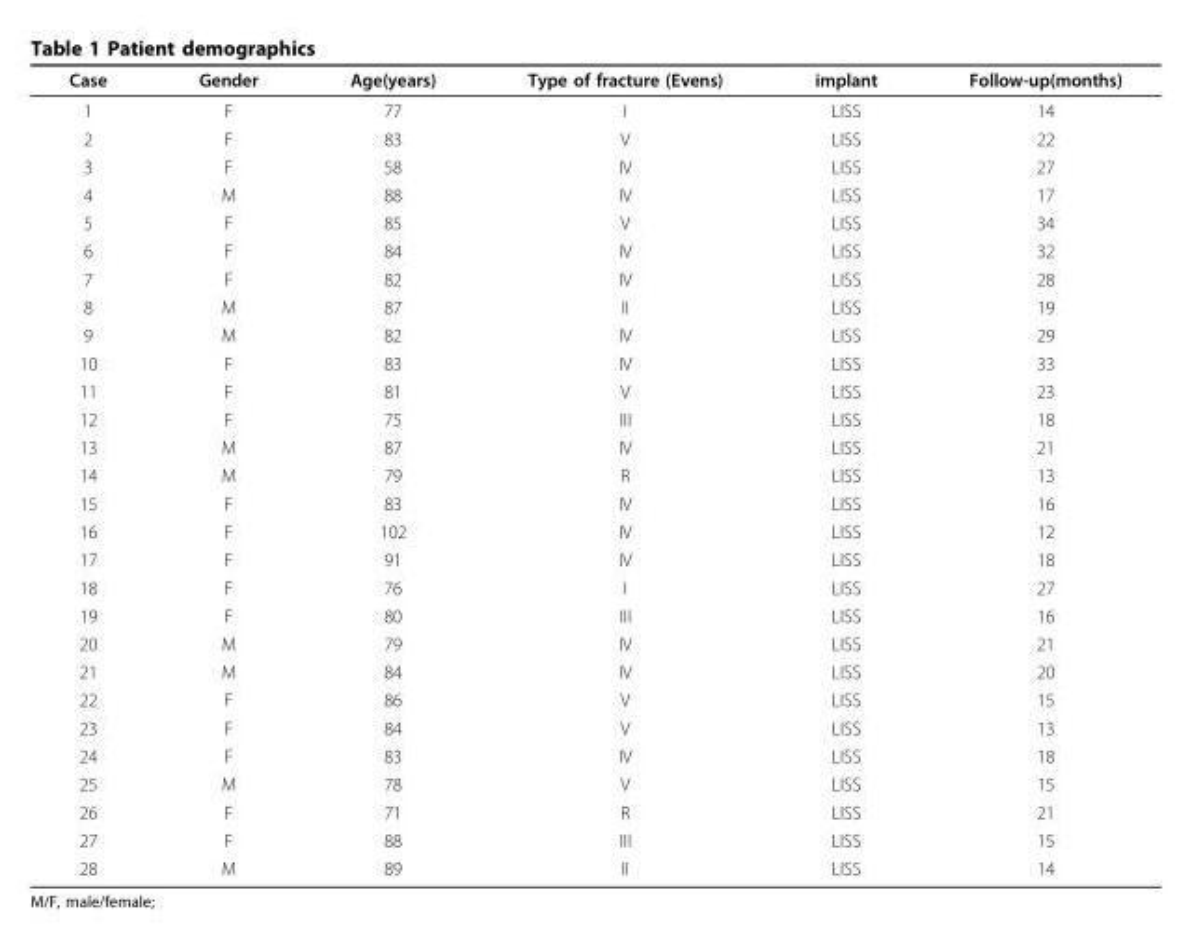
<table><thead><tr><td>Case</td><td>Gender</td><td>Age(years)</td><td>Type of fracture (Evens)</td><td>implant</td><td>Follow-up(months)</td></tr></thead><tbody><tr><td>1</td><td>F</td><td>77</td><td>I</td><td>LISS</td><td>14</td></tr><tr><td>2</td><td>F</td><td>83</td><td>V</td><td>LISS</td><td>22</td></tr><tr><td>3</td><td>F</td><td>58</td><td>IV</td><td>LISS</td><td>27</td></tr><tr><td>4</td><td>M</td><td>88</td><td>IV</td><td>LISS</td><td>17</td></tr><tr><td>5</td><td>F</td><td>85</td><td>V</td><td>LISS</td><td>34</td></tr><tr><td>6</td><td>F</td><td>84</td><td>IV</td><td>LISS</td><td>32</td></tr><tr><td>7</td><td>F</td><td>82</td><td>IV</td><td>LISS</td><td>28</td></tr><tr><td>8</td><td>M</td><td>87</td><td>II</td><td>LISS</td><td>19</td></tr><tr><td>9</td><td>M</td><td>82</td><td>IV</td><td>LISS</td><td>29</td></tr><tr><td>10</td><td>F</td><td>83</td><td>IV</td><td>LISS</td><td>33</td></tr><tr><td>11</td><td>F</td><td>81</td><td>V</td><td>LISS</td><td>23</td></tr><tr><td>12</td><td>F</td><td>75</td><td>III</td><td>LISS</td><td>18</td></tr><tr><td>13</td><td>M</td><td>87</td><td>IV</td><td>LISS</td><td>21</td></tr><tr><td>14</td><td>M</td><td>79</td><td>R</td><td>LISS</td><td>13</td></tr><tr><td>15</td><td>F</td><td>83</td><td>IV</td><td>LISS</td><td>16</td></tr><tr><td>16</td><td>F</td><td>102</td><td>IV</td><td>LISS</td><td>12</td></tr><tr><td>17</td><td>F</td><td>91</td><td>IV</td><td>LISS</td><td>18</td></tr><tr><td>18</td><td>F</td><td>76</td><td>I</td><td>LISS</td><td>27</td></tr><tr><td>19</td><td>F</td><td>80</td><td>III</td><td>LISS</td><td>16</td></tr><tr><td>20</td><td>M</td><td>79</td><td>IV</td><td>LISS</td><td>21</td></tr><tr><td>21</td><td>M</td><td>84</td><td>IV</td><td>LISS</td><td>20</td></tr><tr><td>22</td><td>F</td><td>86</td><td>V</td><td>LISS</td><td>15</td></tr><tr><td>23</td><td>F</td><td>84</td><td>V</td><td>LISS</td><td>13</td></tr><tr><td>24</td><td>F</td><td>83</td><td>IV</td><td>LISS</td><td>18</td></tr><tr><td>25</td><td>M</td><td>78</td><td>V</td><td>LISS</td><td>15</td></tr><tr><td>26</td><td>F</td><td>71</td><td>R</td><td>LISS</td><td>21</td></tr><tr><td>27</td><td>F</td><td>88</td><td>III</td><td>LISS</td><td>15</td></tr><tr><td>28</td><td>M</td><td>89</td><td>II</td><td>LISS</td><td>14</td></tr></tbody></table>